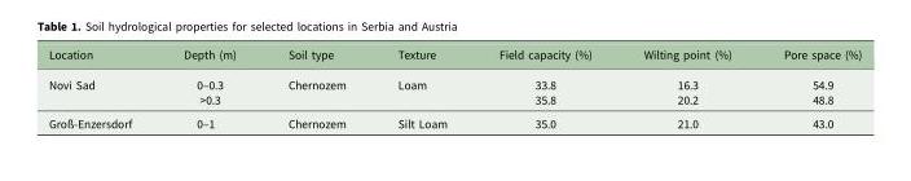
<table><thead><tr><td>Location</td><td>Depth (m)</td><td>Soil type</td><td>Texture</td><td>Field capacity (%)</td><td>Wilting point (%)</td><td>Pore space (%)</td></tr></thead><tbody><tr><td>Novi Sad</td><td>0–0.3 &gt;0.3</td><td>Chernozem</td><td>Loam</td><td>33.8 35.8</td><td>16.3 20.2</td><td>54.9 48.8</td></tr><tr><td>Groß-Enzersdorf</td><td>0–1</td><td>Chernozem</td><td>Silt Loam</td><td>35.0</td><td>21.0</td><td>43.0</td></tr></tbody></table>